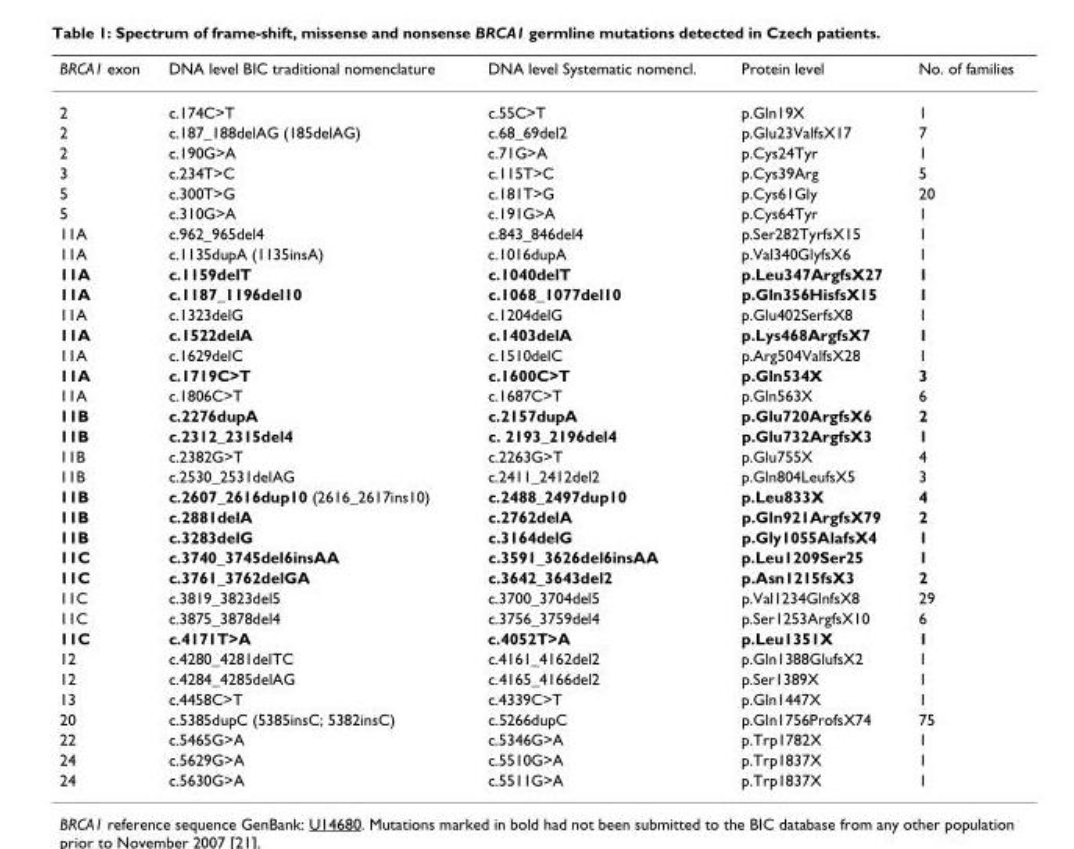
<table><thead><tr><td>BRCA1 exon</td><td>DNA level BIC traditional nomenclature</td><td>DNA level Systematic nomencl.</td><td>Protein level</td><td>No. of families</td></tr></thead><tbody><tr><td>2</td><td>c.174C&gt;T</td><td>c.55C&gt;T</td><td>p.Gln19X</td><td>1</td></tr><tr><td>2</td><td>c.187_188delAG (185delAG)</td><td>c.68_69del2</td><td>p.Glu23ValfsX17</td><td>7</td></tr><tr><td>2</td><td>c.190G&gt;A</td><td>c.71G&gt;A</td><td>p.Cys24Tyr</td><td>1</td></tr><tr><td>3</td><td>c.234T&gt;C</td><td>c.115T&gt;C</td><td>p.Cys39Arg</td><td>5</td></tr><tr><td>5</td><td>c.300T&gt;G</td><td>c.181T&gt;G</td><td>p.Cys61Gly</td><td>20</td></tr><tr><td>5</td><td>c.310G&gt;A</td><td>c.191G&gt;A</td><td>p.Cys64Tyr</td><td>1</td></tr><tr><td>11A</td><td>c.962_965del4</td><td>c.843_846del4</td><td>p.Ser282TyrfsX15</td><td>1</td></tr><tr><td>11A</td><td>c.1135dupA (1135insA)</td><td>c.1016dupA</td><td>p.Val340GlyfsX6</td><td>1</td></tr><tr><td>11A</td><td>c.1159delT</td><td>c.1040delT</td><td>p.Leu347ArgfsX27</td><td>1</td></tr><tr><td>11A</td><td>c.1187_1196del10</td><td>c.1068_1077del10</td><td>p.Gln356HisfsX15</td><td>1</td></tr><tr><td>11A</td><td>c.1323delG</td><td>c.1204delG</td><td>p.Glu402SerfsX8</td><td>1</td></tr><tr><td>11A</td><td>c.1522delA</td><td>c.1403delA</td><td>p.Lys468ArgfsX7</td><td>1</td></tr><tr><td>11A</td><td>c.1629delC</td><td>c.1510delC</td><td>p.Arg504ValfsX28</td><td>1</td></tr><tr><td>11A</td><td>c.1719C&gt;T</td><td>c.1600C&gt;T</td><td>p.Gln534X</td><td>3</td></tr><tr><td>11A</td><td>c.1806C&gt;T</td><td>c.1687C&gt;T</td><td>p.Gln563X</td><td>6</td></tr><tr><td>11B</td><td>c.2276dupA</td><td>c.2157dupA</td><td>p.Glu720ArgfsX6</td><td>2</td></tr><tr><td>11B</td><td>c.2312_2315del4</td><td>c. 2193_2196del4</td><td>p.Glu732ArgfsX3</td><td>1</td></tr><tr><td>11B</td><td>c.2382G&gt;T</td><td>c.2263G&gt;T</td><td>p.Glu755X</td><td>4</td></tr><tr><td>11B</td><td>c.2530_2531delAG</td><td>c.2411_2412del2</td><td>p.Gln804LeufsX5</td><td>3</td></tr><tr><td>11B</td><td>c.2607_2616dup10 (2616_2617ins10)</td><td>c.2488_2497dup10</td><td>p.Leu833X</td><td>4</td></tr><tr><td>11B</td><td>c.2881delA</td><td>c.2762delA</td><td>p.Gln921ArgfsX79</td><td>2</td></tr><tr><td>11B</td><td>c.3283delG</td><td>c.3164delG</td><td>p.Gly1055AlafsX4</td><td>1</td></tr><tr><td>11C</td><td>c.3740_3745del6insAA</td><td>c.3591_3626del6insAA</td><td>p.Leu1209Ser25</td><td>1</td></tr><tr><td>11C</td><td>c.3761_3762delGA</td><td>c.3642_3643del2</td><td>p.Asn1215fsX3</td><td>2</td></tr><tr><td>11C</td><td>c.3819_3823del5</td><td>c.3700_3704del5</td><td>p.Val1234GlnfsX8</td><td>29</td></tr><tr><td>11C</td><td>c.3875_3878del4</td><td>c.3756_3759del4</td><td>p.Ser1253ArgfsX10</td><td>6</td></tr><tr><td>11C</td><td>c.4171T&gt;A</td><td>c.4052T&gt;A</td><td>p.Leu1351X</td><td>1</td></tr><tr><td>12</td><td>c.4280_4281delTC</td><td>c.4161_4162del2</td><td>p.Gln1388GlufsX2</td><td>1</td></tr><tr><td>12</td><td>c.4284_4285delAG</td><td>c.4165_4166del2</td><td>p.Ser1389X</td><td>1</td></tr><tr><td>13</td><td>c.4458C&gt;T</td><td>c.4339C&gt;T</td><td>p.Gln1447X</td><td>1</td></tr><tr><td>20</td><td>c.5385dupC (5385insC; 5382insC)</td><td>c.5266dupC</td><td>p.Gln1756ProfsX74</td><td>75</td></tr><tr><td>22</td><td>c.5465G&gt;A</td><td>c.5346G&gt;A</td><td>p.Trp1782X</td><td>1</td></tr><tr><td>24</td><td>c.5629G&gt;A</td><td>c.5510G&gt;A</td><td>p.Trp1837X</td><td>1</td></tr><tr><td>24</td><td>c.5630G&gt;A</td><td>c.5511G&gt;A</td><td>p.Trp1837X</td><td>1</td></tr></tbody></table>